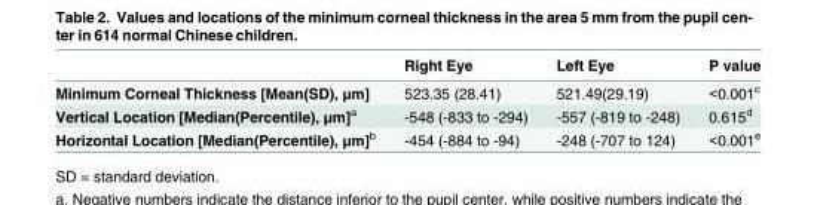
<table><thead><tr><td></td><td>Right Eye</td><td>Left Eye</td><td>P value</td></tr></thead><tbody><tr><td>Minimum Corneal Thickness [Mean(SD), μm]</td><td>523.35 (28.41)</td><td>521.49(29.19)</td><td>&lt;0.001<sup>c</sup></td></tr><tr><td>Vertical Location [Median(Percentile), μm]<sup>a</sup></td><td>-548 (-833 to -294)</td><td>-557 (-819 to -248)</td><td>0.615<sup>d</sup></td></tr><tr><td>Horizontal Location [Median(Percentile), μm]<sup>b</sup></td><td>-454 (-884 to -94)</td><td>-248 (-707 to 124)</td><td>&lt;0.001<sup>e</sup></td></tr></tbody></table>